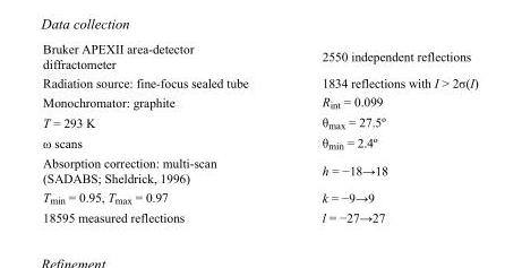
<table><tbody><tr><td>Bruker APEXII area-detector diffractometer</td><td>2550 independent reflections</td></tr><tr><td>Radiation source: fine-focus sealed tube</td><td>1834 reflections with I &gt; 2σ(I)</td></tr><tr><td>Monochromator: graphite</td><td>R<sub>int</sub> = 0.099</td></tr><tr><td>T = 293 K</td><td>θ<sub>max</sub> = 27.5º</td></tr><tr><td>ω scans</td><td>θ<sub>min</sub> = 2.4º</td></tr><tr><td>Absorption correction: multi-scan (SADABS; Sheldrick, 1996)</td><td>h = −18→18</td></tr><tr><td>T<sub>min</sub> = 0.95, T<sub>max</sub> = 0.97</td><td>k = −9→9</td></tr><tr><td>18595 measured reflections</td><td>l = −27→27</td></tr></tbody></table>